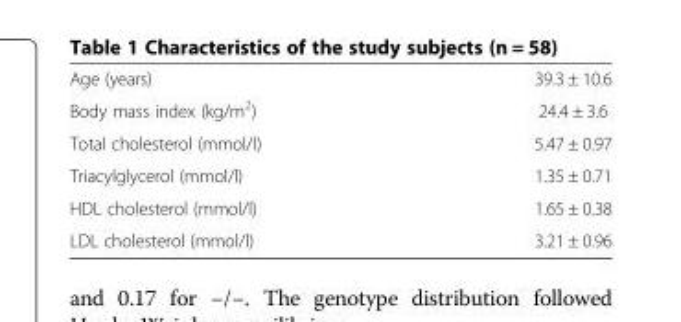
<table><tbody><tr><td>Age (years)</td><td>39.3 ± 10.6</td></tr><tr><td>Body mass index (kg/m<sup>2</sup>)</td><td>24.4 ± 3.6</td></tr><tr><td>Total cholesterol (mmol/l)</td><td>5.47 ± 0.97</td></tr><tr><td>Triacylglycerol (mmol/l)</td><td>1.35 ± 0.71</td></tr><tr><td>HDL cholesterol (mmol/l)</td><td>1.65 ± 0.38</td></tr><tr><td>LDL cholesterol (mmol/l)</td><td>3.21 ± 0.96</td></tr></tbody></table>